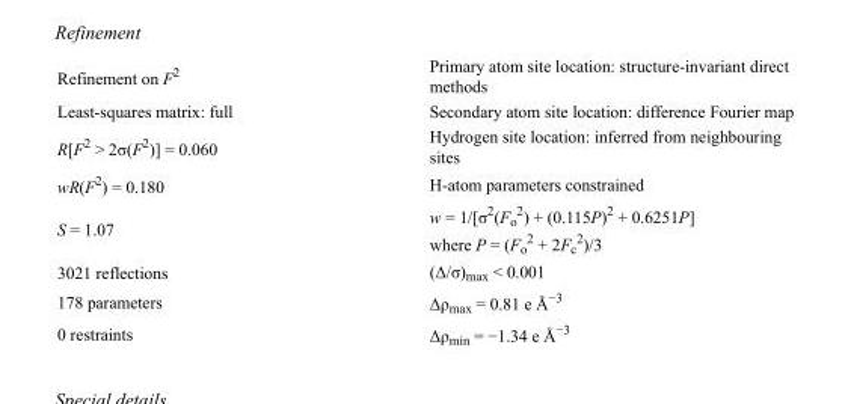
<table><tbody><tr><td>Refinement on F<sup>2</sup></td><td>Primary atom site location: structure-invariant direct methods</td></tr><tr><td>Least-squares matrix: full</td><td>Secondary atom site location: difference Fourier map</td></tr><tr><td>R[F<sup>2</sup> &gt; 2σ(F<sup>2</sup>)] = 0.060</td><td>Hydrogen site location: inferred from neighbouring sites</td></tr><tr><td>wR(F<sup>2</sup>) = 0.180</td><td>H-atom parameters constrained</td></tr><tr><td>S = 1.07</td><td>w = 1/[σ<sup>2</sup>(F<sub>o</sub> <sup>2</sup>) + (0.115P)<sup>2</sup> + 0.6251P] where P = (F<sub>o</sub> <sup>2</sup> + 2F<sub>c</sub> <sup>2</sup>)/3</td></tr><tr><td>3021 reflections</td><td>(Δ/σ)<sub>max</sub> &lt; 0.001</td></tr><tr><td>178 parameters</td><td>Δρ<sub>max</sub> = 0.81 e Å<sup>−3</sup></td></tr><tr><td>0 restraints</td><td>Δρ<sub>min</sub> = −1.34 e Å<sup>−3</sup></td></tr></tbody></table>